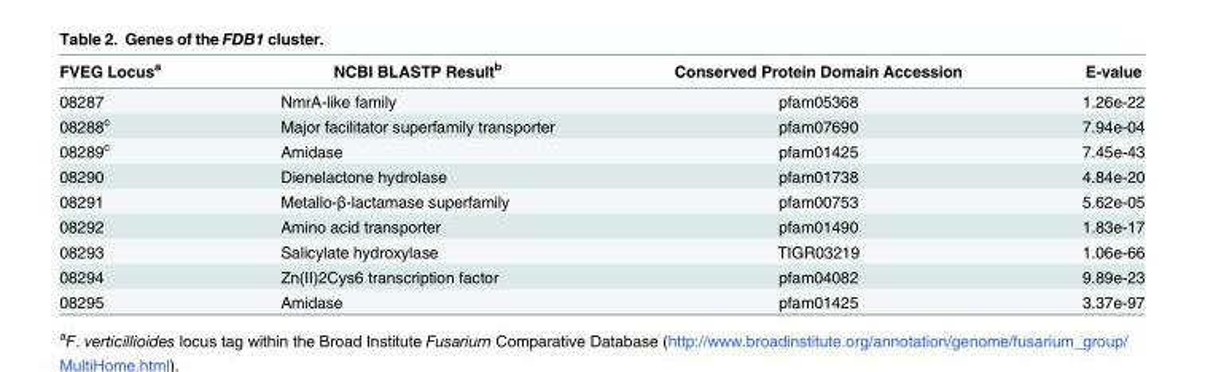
<table><thead><tr><td>FVEG Locus<sup>a</sup></td><td>NCBI BLASTP Result<sup>b</sup></td><td>Conserved Protein Domain Accession</td><td>E-value</td></tr></thead><tbody><tr><td>08287</td><td>NmrA-like family</td><td>pfam05368</td><td>1.26e-22</td></tr><tr><td>08288<sup>c</sup></td><td>Major facilitator superfamily transporter</td><td>pfam07690</td><td>7.94e-04</td></tr><tr><td>08289<sup>c</sup></td><td>Amidase</td><td>pfam01425</td><td>7.45e-43</td></tr><tr><td>08290</td><td>Dienelactone hydrolase</td><td>pfam01738</td><td>4.84e-20</td></tr><tr><td>08291</td><td>Metallo-β-lactamase superfamily</td><td>pfam00753</td><td>5.62e-05</td></tr><tr><td>08292</td><td>Amino acid transporter</td><td>pfam01490</td><td>1.83e-17</td></tr><tr><td>08293</td><td>Salicylate hydroxylase</td><td>TIGR03219</td><td>1.06e-66</td></tr><tr><td>08294</td><td>Zn(II)2Cys6 transcription factor</td><td>pfam04082</td><td>9.89e-23</td></tr><tr><td>08295</td><td>Amidase</td><td>pfam01425</td><td>3.37e-97</td></tr></tbody></table>